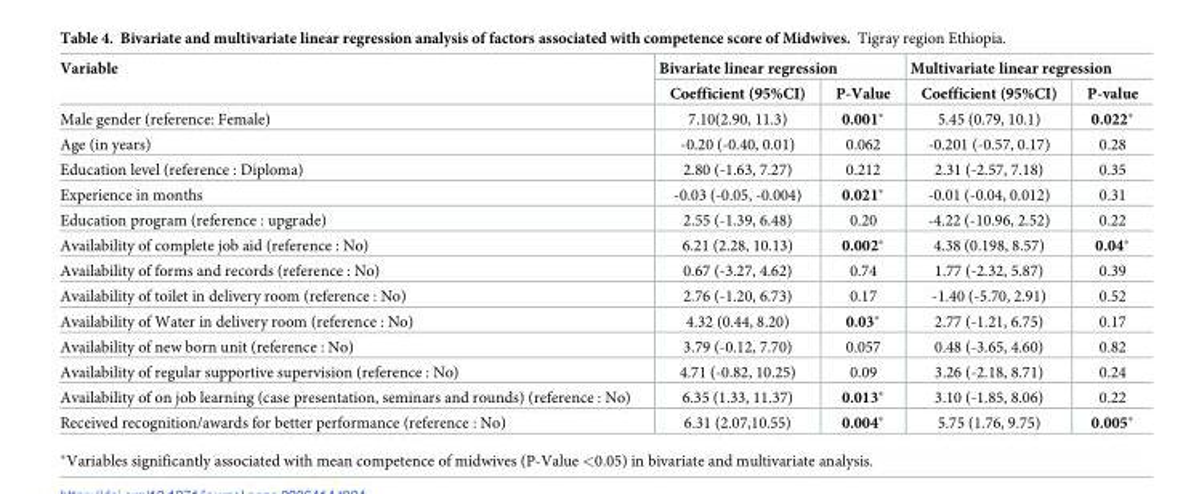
<table><thead><tr><td rowspan="2">Variable</td><td colspan="2">Bivariate linear regression</td><td colspan="2">Multivariate linear regression</td></tr><tr><td>Coefficient (95%CI)</td><td>P-Value</td><td>Coefficient (95%CI)</td><td>P-value</td></tr></thead><tbody><tr><td>Male gender (reference: Female)</td><td>7.10(2.90, 11.3)</td><td>0.001*</td><td>5.45 (0.79, 10.1)</td><td>0.022*</td></tr><tr><td>Age (in years)</td><td>-0.20 (-0.40, 0.01)</td><td>0.062</td><td>-0.201 (-0.57, 0.17)</td><td>0.28</td></tr><tr><td>Education level (reference : Diploma)</td><td>2.80 (-1.63, 7.27)</td><td>0.212</td><td>2.31 (-2.57, 7.18)</td><td>0.35</td></tr><tr><td>Experience in months</td><td>-0.03 (-0.05, -0.004)</td><td>0.021*</td><td>-0.01 (-0.04, 0.012)</td><td>0.31</td></tr><tr><td>Education program (reference : upgrade)</td><td>2.55 (-1.39, 6.48)</td><td>0.20</td><td>-4.22 (-10.96, 2.52)</td><td>0.22</td></tr><tr><td>Availability of complete job aid (reference : No)</td><td>6.21 (2.28, 10.13)</td><td>0.002*</td><td>4.38 (0.198, 8.57)</td><td>0.04*</td></tr><tr><td>Availability of forms and records (reference : No)</td><td>0.67 (-3.27, 4.62)</td><td>0.74</td><td>1.77 (-2.32, 5.87)</td><td>0.39</td></tr><tr><td>Availability of toilet in delivery room (reference : No)</td><td>2.76 (-1.20, 6.73)</td><td>0.17</td><td>-1.40 (-5.70, 2.91)</td><td>0.52</td></tr><tr><td>Availability of Water in delivery room (reference : No)</td><td>4.32 (0.44, 8.20)</td><td>0.03*</td><td>2.77 (-1.21, 6.75)</td><td>0.17</td></tr><tr><td>Availability of new born unit (reference : No)</td><td>3.79 (-0.12, 7.70)</td><td>0.057</td><td>0.48 (-3.65, 4.60)</td><td>0.82</td></tr><tr><td>Availability of regular supportive supervision (reference : No)</td><td>4.71 (-0.82, 10.25)</td><td>0.09</td><td>3.26 (-2.18, 8.71)</td><td>0.24</td></tr><tr><td>Availability of on job learning (case presentation, seminars and rounds) (reference : No)</td><td>6.35 (1.33, 11.37)</td><td>0.013*</td><td>3.10 (-1.85, 8.06)</td><td>0.22</td></tr><tr><td>Received recognition/awards for better performance (reference : No)</td><td>6.31 (2.07,10.55)</td><td>0.004*</td><td>5.75 (1.76, 9.75)</td><td>0.005*</td></tr></tbody></table>